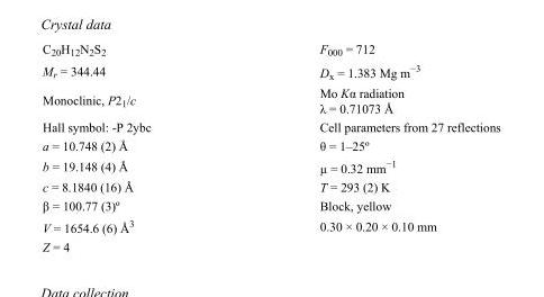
<table><tbody><tr><td>C<sub>20</sub>H<sub>12</sub>N<sub>2</sub>S<sub>2</sub></td><td>F000 = 712</td></tr><tr><td>M<sub>r</sub> = 344.44</td><td>D<sub>x</sub> = 1.383 Mg m<sup>−3</sup></td></tr><tr><td>Monoclinic, P2<sub>1</sub>/c</td><td>Mo Kα radiation λ = 0.71073 Å</td></tr><tr><td>Hall symbol: -P 2ybc</td><td>Cell parameters from 27 reflections</td></tr><tr><td>a = 10.748 (2) Å</td><td>θ = 1–25º</td></tr><tr><td>b = 19.148 (4) Å</td><td>µ = 0.32 mm<sup>−1</sup></td></tr><tr><td>c = 8.1840 (16) Å</td><td>T = 293 (2) K</td></tr><tr><td>β = 100.77 (3)º</td><td>Block, yellow</td></tr><tr><td>V = 1654.6 (6) Å<sup>3</sup></td><td>0.30 × 0.20 × 0.10 mm</td></tr><tr><td>Z = 4</td><td></td></tr></tbody></table>